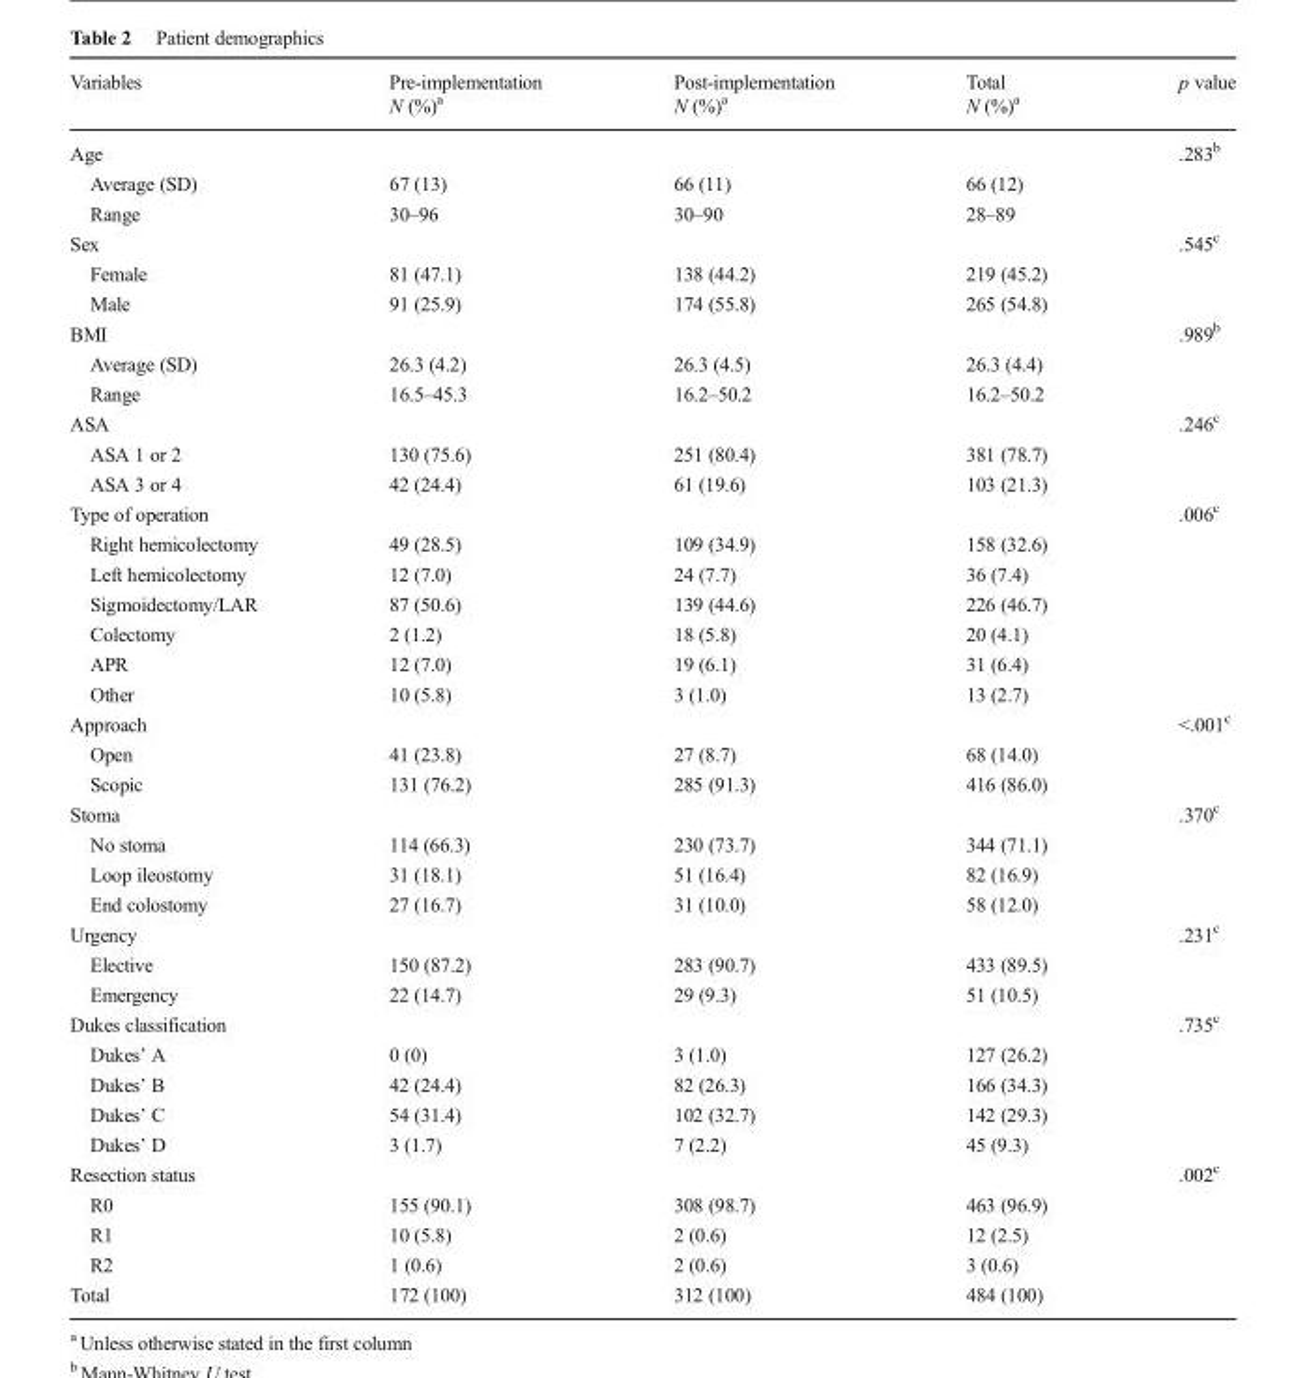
<table><thead><tr><td>Variables</td><td>Pre-implementation N (%)<sup>a</sup></td><td>Post-implementation N (%)<sup>a</sup></td><td>Total N (%)<sup>a</sup></td><td>p value</td></tr></thead><tbody><tr><td>Age</td><td></td><td></td><td></td><td>.283<sup>b</sup></td></tr><tr><td>Average (SD)</td><td>67 (13)</td><td>66 (11)</td><td>66 (12)</td><td></td></tr><tr><td>Range</td><td>30–96</td><td>30–90</td><td>28–89</td><td></td></tr><tr><td>Sex</td><td></td><td></td><td></td><td>.545<sup>c</sup></td></tr><tr><td>Female</td><td>81 (47.1)</td><td>138 (44.2)</td><td>219 (45.2)</td><td></td></tr><tr><td>Male</td><td>91 (25.9)</td><td>174 (55.8)</td><td>265 (54.8)</td><td></td></tr><tr><td>BMI</td><td></td><td></td><td></td><td>.989<sup>b</sup></td></tr><tr><td>Average (SD)</td><td>26.3 (4.2)</td><td>26.3 (4.5)</td><td>26.3 (4.4)</td><td></td></tr><tr><td>Range</td><td>16.5–45.3</td><td>16.2–50.2</td><td>16.2–50.2</td><td></td></tr><tr><td>ASA</td><td></td><td></td><td></td><td>.246<sup>c</sup></td></tr><tr><td>ASA 1 or 2</td><td>130 (75.6)</td><td>251 (80.4)</td><td>381 (78.7)</td><td></td></tr><tr><td>ASA 3 or 4</td><td>42 (24.4)</td><td>61 (19.6)</td><td>103 (21.3)</td><td></td></tr><tr><td>Type of operation</td><td></td><td></td><td></td><td>.006<sup>c</sup></td></tr><tr><td>Right hemicolectomy</td><td>49 (28.5)</td><td>109 (34.9)</td><td>158 (32.6)</td><td></td></tr><tr><td>Left hemicolectomy</td><td>12 (7.0)</td><td>24 (7.7)</td><td>36 (7.4)</td><td></td></tr><tr><td>Sigmoidectomy/LAR</td><td>87 (50.6)</td><td>139 (44.6)</td><td>226 (46.7)</td><td></td></tr><tr><td>Colectomy</td><td>2 (1.2)</td><td>18 (5.8)</td><td>20 (4.1)</td><td></td></tr><tr><td>APR</td><td>12 (7.0)</td><td>19 (6.1)</td><td>31 (6.4)</td><td></td></tr><tr><td>Other</td><td>10 (5.8)</td><td>3 (1.0)</td><td>13 (2.7)</td><td></td></tr><tr><td>Approach</td><td></td><td></td><td></td><td>&lt;.001<sup>c</sup></td></tr><tr><td>Open</td><td>41 (23.8)</td><td>27 (8.7)</td><td>68 (14.0)</td><td></td></tr><tr><td>Scopic</td><td>131 (76.2)</td><td>285 (91.3)</td><td>416 (86.0)</td><td></td></tr><tr><td>Stoma</td><td></td><td></td><td></td><td>.370<sup>c</sup></td></tr><tr><td>No stoma</td><td>114 (66.3)</td><td>230 (73.7)</td><td>344 (71.1)</td><td></td></tr><tr><td>Loop ileostomy</td><td>31 (18.1)</td><td>51 (16.4)</td><td>82 (16.9)</td><td></td></tr><tr><td>End colostomy</td><td>27 (16.7)</td><td>31 (10.0)</td><td>58 (12.0)</td><td></td></tr><tr><td>Urgency</td><td></td><td></td><td></td><td>.231<sup>c</sup></td></tr><tr><td>Elective</td><td>150 (87.2)</td><td>283 (90.7)</td><td>433 (89.5)</td><td></td></tr><tr><td>Emergency</td><td>22 (14.7)</td><td>29 (9.3)</td><td>51 (10.5)</td><td></td></tr><tr><td>Dukes classification</td><td></td><td></td><td></td><td>.735<sup>c</sup></td></tr><tr><td>Dukes’ A</td><td>0 (0)</td><td>3 (1.0)</td><td>127 (26.2)</td><td></td></tr><tr><td>Dukes’ B</td><td>42 (24.4)</td><td>82 (26.3)</td><td>166 (34.3)</td><td></td></tr><tr><td>Dukes’ C</td><td>54 (31.4)</td><td>102 (32.7)</td><td>142 (29.3)</td><td></td></tr><tr><td>Dukes’ D</td><td>3 (1.7)</td><td>7 (2.2)</td><td>45 (9.3)</td><td></td></tr><tr><td>Resection status</td><td></td><td></td><td></td><td>.002<sup>c</sup></td></tr><tr><td>R0</td><td>155 (90.1)</td><td>308 (98.7)</td><td>463 (96.9)</td><td></td></tr><tr><td>R1</td><td>10 (5.8)</td><td>2 (0.6)</td><td>12 (2.5)</td><td></td></tr><tr><td>R2</td><td>1 (0.6)</td><td>2 (0.6)</td><td>3 (0.6)</td><td></td></tr><tr><td>Total</td><td>172 (100)</td><td>312 (100)</td><td>484 (100)</td><td></td></tr></tbody></table>